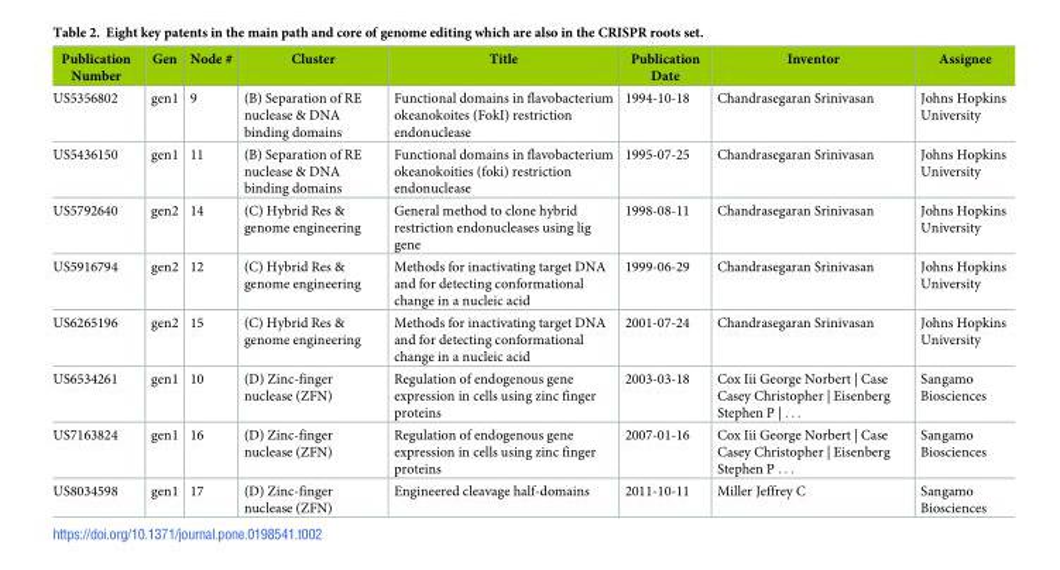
<table><thead><tr><td>Publication Number</td><td>Gen</td><td>Node #</td><td>Cluster</td><td>Title</td><td>Publication Date</td><td>Inventor</td><td>Assignee</td></tr></thead><tbody><tr><td>US5356802</td><td>gen1</td><td>9</td><td>(B) Separation of RE nuclease &amp; DNA binding domains</td><td>Functional domains in flavobacterium okeanokoites (FokI) restriction endonuclease</td><td>1994-10-18</td><td>Chandrasegaran Srinivasan</td><td>Johns Hopkins University</td></tr><tr><td>US5436150</td><td>gen1</td><td>11</td><td>(B) Separation of RE nuclease &amp; DNA binding domains</td><td>Functional domains in flavobacterium okeanokoities (foki) restriction endonuclease</td><td>1995-07-25</td><td>Chandrasegaran Srinivasan</td><td>Johns Hopkins University</td></tr><tr><td>US5792640</td><td>gen2</td><td>14</td><td>(C) Hybrid Res &amp; genome engineering</td><td>General method to clone hybrid restriction endonucleases using lig gene</td><td>1998-08-11</td><td>Chandrasegaran Srinivasan</td><td>Johns Hopkins University</td></tr><tr><td>US5916794</td><td>gen2</td><td>12</td><td>(C) Hybrid Res &amp; genome engineering</td><td>Methods for inactivating target DNA and for detecting conformational change in a nucleic acid</td><td>1999-06-29</td><td>Chandrasegaran Srinivasan</td><td>Johns Hopkins University</td></tr><tr><td>US6265196</td><td>gen2</td><td>15</td><td>(C) Hybrid Res &amp; genome engineering</td><td>Methods for inactivating target DNA and for detecting conformational change in a nucleic acid</td><td>2001-07-24</td><td>Chandrasegaran Srinivasan</td><td>Johns Hopkins University</td></tr><tr><td>US6534261</td><td>gen1</td><td>10</td><td>(D) Zinc-finger nuclease (ZFN)</td><td>Regulation of endogenous gene expression in cells using zinc finger proteins</td><td>2003-03-18</td><td>Cox Iii George Norbert | Case Casey Christopher | Eisenberg Stephen P | . . .</td><td>Sangamo Biosciences</td></tr><tr><td>US7163824</td><td>gen1</td><td>16</td><td>(D) Zinc-finger nuclease (ZFN)</td><td>Regulation of endogenous gene expression in cells using zinc finger proteins</td><td>2007-01-16</td><td>Cox Iii George Norbert | Case Casey Christopher | Eisenberg Stephen P . . .</td><td>Sangamo Biosciences</td></tr><tr><td>US8034598</td><td>gen1</td><td>17</td><td>(D) Zinc-finger nuclease (ZFN)</td><td>Engineered cleavage half-domains</td><td>2011-10-11</td><td>Miller Jeffrey C</td><td>Sangamo Biosciences</td></tr></tbody></table>